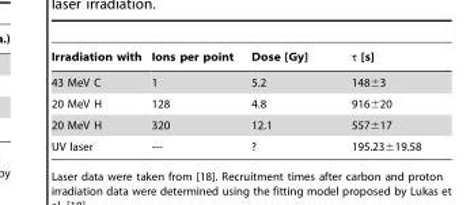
<table><thead><tr><td>Irradiation with</td><td>Ions per point</td><td>Dose [Gy]</td><td>τ [s]</td></tr></thead><tbody><tr><td>43 MeV C</td><td>1</td><td>5.2</td><td>148±3</td></tr><tr><td>20 MeV H</td><td>128</td><td>4.8</td><td>916±20</td></tr><tr><td>20 MeV H</td><td>320</td><td>12.1</td><td>557±17</td></tr><tr><td>UV laser</td><td>---</td><td>?</td><td>195.23±19.58</td></tr></tbody></table>